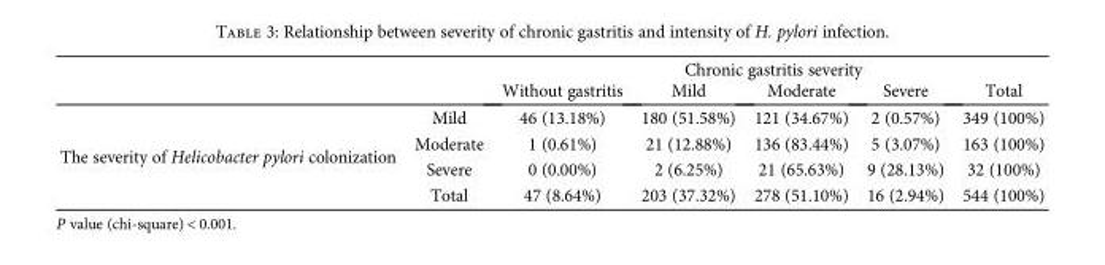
<table><thead><tr><td rowspan="2"></td><td rowspan="2"></td><td colspan="5">Chronic gastritis severity</td></tr><tr><td>Without gastritis</td><td>Mild</td><td>Moderate</td><td>Severe</td><td>Total</td></tr></thead><tbody><tr><td rowspan="4">The severity of Helicobacter pylori colonization</td><td>Mild</td><td>46 (13.18%)</td><td>180 (51.58%)</td><td>121 (34.67%)</td><td>2 (0.57%)</td><td>349 (100%)</td></tr><tr><td>Moderate</td><td>1 (0.61%)</td><td>21 (12.88%)</td><td>136 (83.44%)</td><td>5 (3.07%)</td><td>163 (100%)</td></tr><tr><td>Severe</td><td>0 (0.00%)</td><td>2 (6.25%)</td><td>21 (65.63%)</td><td>9 (28.13%)</td><td>32 (100%)</td></tr><tr><td>Total</td><td>47 (8.64%)</td><td>203 (37.32%)</td><td>278 (51.10%)</td><td>16 (2.94%)</td><td>544 (100%)</td></tr></tbody></table>